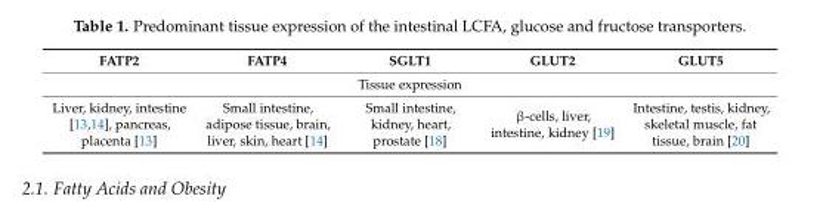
<table><thead><tr><td>FATP2</td><td>FATP4</td><td>SGLT1</td><td>GLUT2</td><td>GLUT5</td></tr></thead><tbody><tr><td colspan="5">Tissue expression</td></tr><tr><td>Liver, kidney, intestine [13,14], pancreas, placenta [13]</td><td>Small intestine, adipose tissue, brain, liver, skin, heart [14]</td><td>Small intestine, kidney, heart, prostate [18]</td><td>β-cells, liver, intestine, kidney [19]</td><td>Intestine, testis, kidney, skeletal muscle, fat tissue, brain [20]</td></tr></tbody></table>